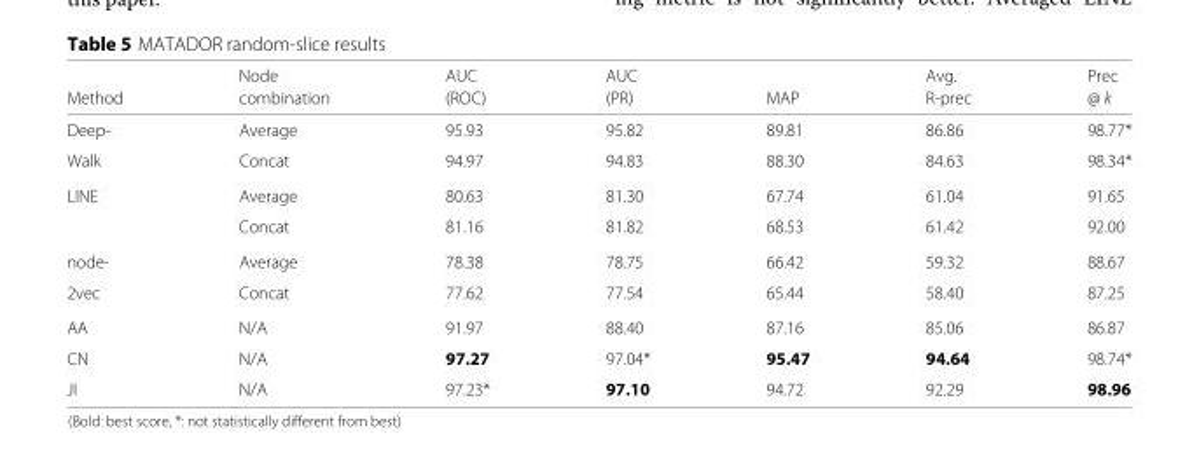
<table><thead><tr><td rowspan="2">Method</td><td rowspan="2">Node combination</td><td rowspan="2">AUC (ROC)</td><td rowspan="2">AUC (PR)</td><td rowspan="2">MAP</td><td rowspan="2">Avg. R-prec</td><td rowspan="2">Prec @ k</td></tr><tr></tr></thead><tbody><tr><td>Deep-</td><td>Average</td><td>95.93</td><td>95.82</td><td>89.81</td><td>86.86</td><td>98.77*</td></tr><tr><td>Walk</td><td>Concat</td><td>94.97</td><td>94.83</td><td>88.30</td><td>84.63</td><td>98.34*</td></tr><tr><td rowspan="2">LINE</td><td>Average</td><td>80.63</td><td>81.30</td><td>67.74</td><td>61.04</td><td>91.65</td></tr><tr><td>Concat</td><td>81.16</td><td>81.82</td><td>68.53</td><td>61.42</td><td>92.00</td></tr><tr><td>node-</td><td>Average</td><td>78.38</td><td>78.75</td><td>66.42</td><td>59.32</td><td>88.67</td></tr><tr><td>2vec</td><td>Concat</td><td>77.62</td><td>77.54</td><td>65.44</td><td>58.40</td><td>87.25</td></tr><tr><td>AA</td><td>N/A</td><td>91.97</td><td>88.40</td><td>87.16</td><td>85.06</td><td>86.87</td></tr><tr><td>CN</td><td>N/A</td><td>97.27</td><td>97.04*</td><td>95.47</td><td>94.64</td><td>98.74*</td></tr><tr><td>JI</td><td>N/A</td><td>97.23*</td><td>97.10</td><td>94.72</td><td>92.29</td><td>98.96</td></tr></tbody></table>